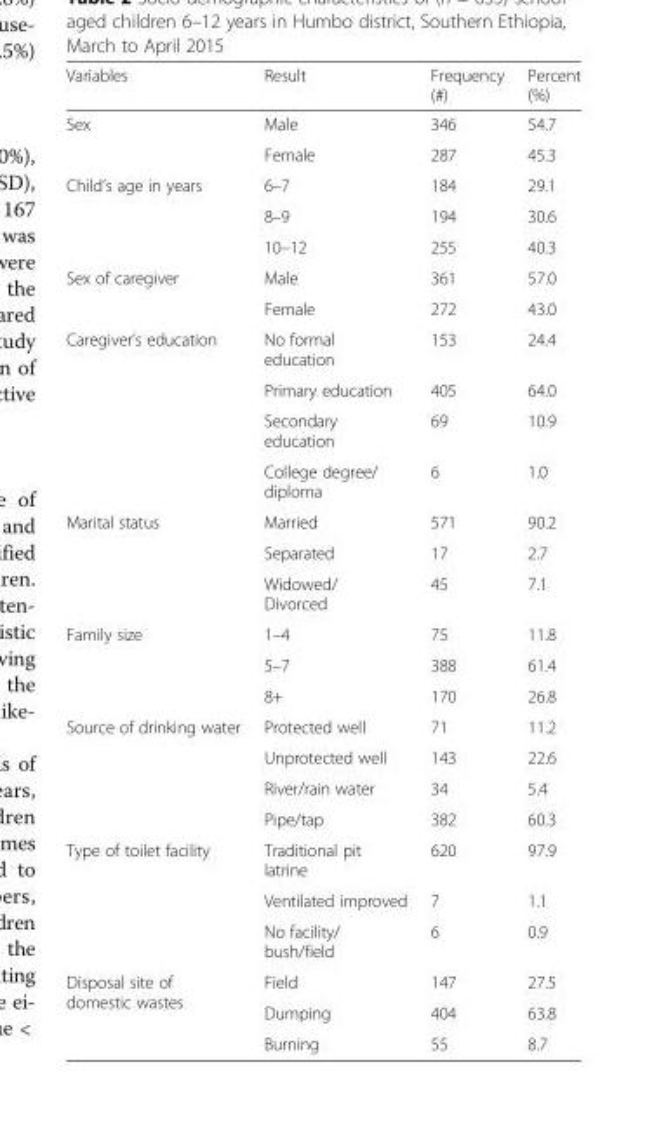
<table><thead><tr><td>Variables</td><td>Result</td><td>Frequency (#)</td><td>Percent (%)</td></tr></thead><tbody><tr><td rowspan="2">Sex</td><td>Male</td><td>346</td><td>54.7</td></tr><tr><td>Female</td><td>287</td><td>45.3</td></tr><tr><td rowspan="3">Child’s age in years</td><td>6–7</td><td>184</td><td>29.1</td></tr><tr><td>8–9</td><td>194</td><td>30.6</td></tr><tr><td>10–12</td><td>255</td><td>40.3</td></tr><tr><td rowspan="2">Sex of caregiver</td><td>Male</td><td>361</td><td>57.0</td></tr><tr><td>Female</td><td>272</td><td>43.0</td></tr><tr><td rowspan="4">Caregiver’s education</td><td>No formal education</td><td>153</td><td>24.4</td></tr><tr><td>Primary education</td><td>405</td><td>64.0</td></tr><tr><td>Secondary education</td><td>69</td><td>10.9</td></tr><tr><td>College degree/ diploma</td><td>6</td><td>1.0</td></tr><tr><td rowspan="3">Marital status</td><td>Married</td><td>571</td><td>90.2</td></tr><tr><td>Separated</td><td>17</td><td>2.7</td></tr><tr><td>Widowed/ Divorced</td><td>45</td><td>7.1</td></tr><tr><td rowspan="3">Family size</td><td>1–4</td><td>75</td><td>11.8</td></tr><tr><td>5–7</td><td>388</td><td>61.4</td></tr><tr><td>8+</td><td>170</td><td>26.8</td></tr><tr><td rowspan="4">Source of drinking water</td><td>Protected well</td><td>71</td><td>11.2</td></tr><tr><td>Unprotected well</td><td>143</td><td>22.6</td></tr><tr><td>River/rain water</td><td>34</td><td>5.4</td></tr><tr><td>Pipe/tap</td><td>382</td><td>60.3</td></tr><tr><td rowspan="3">Type of toilet facility</td><td>Traditional pit latrine</td><td>620</td><td>97.9</td></tr><tr><td>Ventilated improved</td><td>7</td><td>1.1</td></tr><tr><td>No facility/ bush/field</td><td>6</td><td>0.9</td></tr><tr><td rowspan="3">Disposal site of domestic wastes</td><td>Field</td><td>147</td><td>27.5</td></tr><tr><td>Dumping</td><td>404</td><td>63.8</td></tr><tr><td>Burning</td><td>55</td><td>8.7</td></tr></tbody></table>